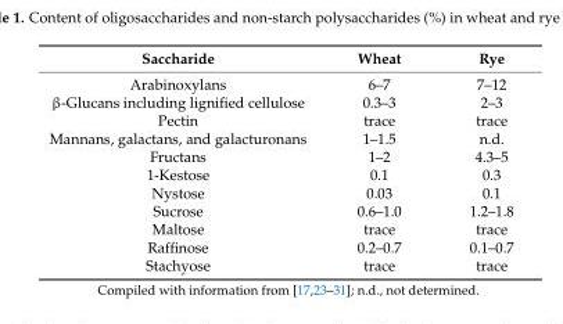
<table><thead><tr><td>Saccharide</td><td>Wheat</td><td>Rye</td></tr></thead><tbody><tr><td>Arabinoxylans</td><td>6–7</td><td>7–12</td></tr><tr><td>β-Glucans including lignified cellulose</td><td>0.3–3</td><td>2–3</td></tr><tr><td>Pectin</td><td>trace</td><td>trace</td></tr><tr><td>Mannans, galactans, and galacturonans</td><td>1–1.5</td><td>n.d.</td></tr><tr><td>Fructans</td><td>1–2</td><td>4.3–5</td></tr><tr><td>1-Kestose</td><td>0.1</td><td>0.3</td></tr><tr><td>Nystose</td><td>0.03</td><td>0.1</td></tr><tr><td>Sucrose</td><td>0.6–1.0</td><td>1.2–1.8</td></tr><tr><td>Maltose</td><td>trace</td><td>trace</td></tr><tr><td>Raffinose</td><td>0.2–0.7</td><td>0.1–0.7</td></tr><tr><td>Stachyose</td><td>trace</td><td>trace</td></tr></tbody></table>